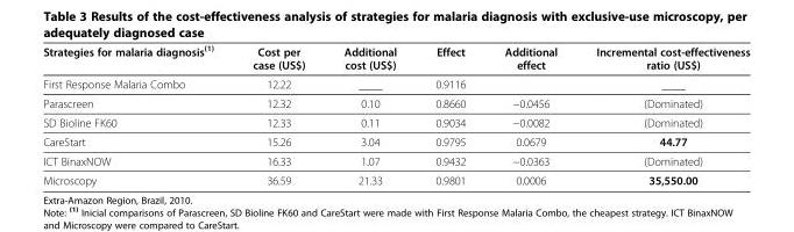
<table><thead><tr><td>Strategies for malaria diagnosis<sup>(1)</sup></td><td>Cost per case (US$)</td><td>Additional cost (US$)</td><td>Effect</td><td>Additional effect</td><td>Incremental cost-effectiveness ratio (US$)</td></tr></thead><tbody><tr><td>First Response Malaria Combo</td><td>12.22</td><td>____</td><td>0.9116</td><td></td><td>____</td></tr><tr><td>Parascreen</td><td>12.32</td><td>0.10</td><td>0.8660</td><td>−0.0456</td><td>(Dominated)</td></tr><tr><td>SD Bioline FK60</td><td>12.33</td><td>0.11</td><td>0.9034</td><td>−0.0082</td><td>(Dominated)</td></tr><tr><td>CareStart</td><td>15.26</td><td>3.04</td><td>0.9795</td><td>0.0679</td><td>44.77</td></tr><tr><td>ICT BinaxNOW</td><td>16.33</td><td>1.07</td><td>0.9432</td><td>−0.0363</td><td>(Dominated)</td></tr><tr><td>Microscopy</td><td>36.59</td><td>21.33</td><td>0.9801</td><td>0.0006</td><td>35,550.00</td></tr></tbody></table>